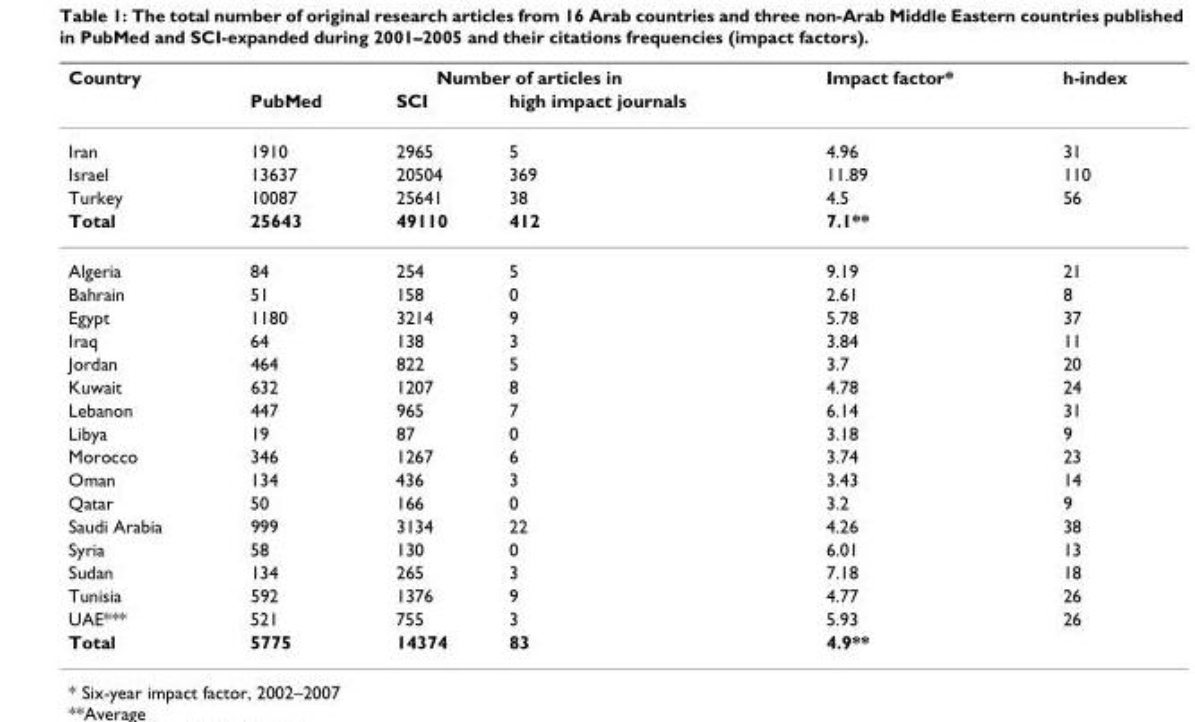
<table><thead><tr><td rowspan="2">Country</td><td colspan="3">Number of articles in</td><td rowspan="2">Impact factor*</td><td rowspan="2">h-index</td></tr><tr><td>PubMed</td><td>SCI</td><td>high impact journals</td></tr></thead><tbody><tr><td>Iran</td><td>1910</td><td>2965</td><td>5</td><td>4.96</td><td>31</td></tr><tr><td>Israel</td><td>13637</td><td>20504</td><td>369</td><td>11.89</td><td>110</td></tr><tr><td>Turkey</td><td>10087</td><td>25641</td><td>38</td><td>4.5</td><td>56</td></tr><tr><td>Total</td><td>25643</td><td>49110</td><td>412</td><td>7.1**</td><td></td></tr><tr><td>Algeria</td><td>84</td><td>254</td><td>5</td><td>9.19</td><td>21</td></tr><tr><td>Bahrain</td><td>51</td><td>158</td><td>0</td><td>2.61</td><td>8</td></tr><tr><td>Egypt</td><td>1180</td><td>3214</td><td>9</td><td>5.78</td><td>37</td></tr><tr><td>Iraq</td><td>64</td><td>138</td><td>3</td><td>3.84</td><td>11</td></tr><tr><td>Jordan</td><td>464</td><td>822</td><td>5</td><td>3.7</td><td>20</td></tr><tr><td>Kuwait</td><td>632</td><td>1207</td><td>8</td><td>4.78</td><td>24</td></tr><tr><td>Lebanon</td><td>447</td><td>965</td><td>7</td><td>6.14</td><td>31</td></tr><tr><td>Libya</td><td>19</td><td>87</td><td>0</td><td>3.18</td><td>9</td></tr><tr><td>Morocco</td><td>346</td><td>1267</td><td>6</td><td>3.74</td><td>23</td></tr><tr><td>Oman</td><td>134</td><td>436</td><td>3</td><td>3.43</td><td>14</td></tr><tr><td>Qatar</td><td>50</td><td>166</td><td>0</td><td>3.2</td><td>9</td></tr><tr><td>Saudi Arabia</td><td>999</td><td>3134</td><td>22</td><td>4.26</td><td>38</td></tr><tr><td>Syria</td><td>58</td><td>130</td><td>0</td><td>6.01</td><td>13</td></tr><tr><td>Sudan</td><td>134</td><td>265</td><td>3</td><td>7.18</td><td>18</td></tr><tr><td>Tunisia</td><td>592</td><td>1376</td><td>9</td><td>4.77</td><td>26</td></tr><tr><td>UAE***</td><td>521</td><td>755</td><td>3</td><td>5.93</td><td>26</td></tr><tr><td>Total</td><td>5775</td><td>14374</td><td>83</td><td>4.9**</td><td></td></tr></tbody></table>